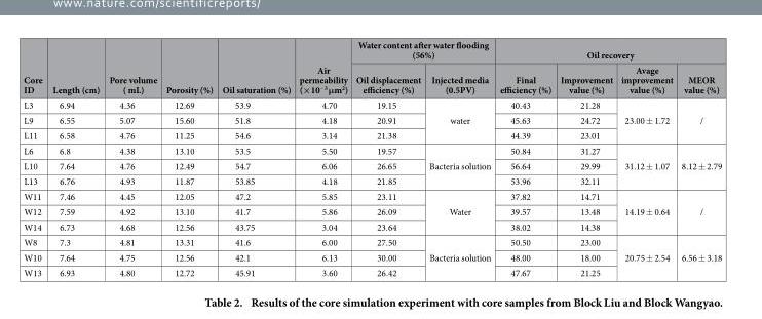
<table><thead><tr><td rowspan="2">Core ID</td><td rowspan="2">Length (cm)</td><td rowspan="2">Pore volume ( mL)</td><td rowspan="2">Porosity (%)</td><td rowspan="2">Oil saturation (%)</td><td rowspan="2">Air permeability (×10<sup>−3</sup> μm<sup>2</sup>)</td><td colspan="2">Water content after water flooding (56%)</td><td colspan="4">Oil recovery</td></tr><tr><td>Oil displacement efficiency (%)</td><td>Injected media (0.5PV)</td><td>Final efficiency (%)</td><td>Improvement value (%)</td><td>Avage improvement value (%)</td><td>MEOR value (%)</td></tr></thead><tbody><tr><td>L3</td><td>6.94</td><td>4.36</td><td>12.69</td><td>53.9</td><td>4.70</td><td>19.15</td><td rowspan="3">water</td><td>40.43</td><td>21.28</td><td rowspan="3">23.00 ± 1.72</td><td rowspan="3">/</td></tr><tr><td>L9</td><td>6.55</td><td>5.07</td><td>15.60</td><td>51.8</td><td>4.18</td><td>20.91</td><td>45.63</td><td>24.72</td></tr><tr><td>L11</td><td>6.58</td><td>4.76</td><td>11.25</td><td>54.6</td><td>3.14</td><td>21.38</td><td>44.39</td><td>23.01</td></tr><tr><td>L6</td><td>6.8</td><td>4.38</td><td>13.10</td><td>53.5</td><td>5.50</td><td>19.57</td><td rowspan="3">Bacteria solution</td><td>50.84</td><td>31.27</td><td rowspan="3">31.12 ± 1.07</td><td rowspan="3">8.12 ± 2.79</td></tr><tr><td>L10</td><td>7.64</td><td>4.76</td><td>12.49</td><td>54.7</td><td>6.06</td><td>26.65</td><td>56.64</td><td>29.99</td></tr><tr><td>L13</td><td>6.76</td><td>4.93</td><td>11.87</td><td>53.85</td><td>4.18</td><td>21.85</td><td>53.96</td><td>32.11</td></tr><tr><td>W11</td><td>7.46</td><td>4.45</td><td>12.05</td><td>47.2</td><td>5.85</td><td>23.11</td><td rowspan="3">Water</td><td>37.82</td><td>14.71</td><td rowspan="3">14.19 ± 0.64</td><td rowspan="3">/</td></tr><tr><td>W12</td><td>7.59</td><td>4.92</td><td>13.10</td><td>41.7</td><td>5.86</td><td>26.09</td><td>39.57</td><td>13.48</td></tr><tr><td>W14</td><td>6.73</td><td>4.68</td><td>12.56</td><td>43.75</td><td>3.04</td><td>23.64</td><td>38.02</td><td>14.38</td></tr><tr><td>W8</td><td>7.3</td><td>4.81</td><td>13.31</td><td>41.6</td><td>6.00</td><td>27.50</td><td rowspan="3">Bacteria solution</td><td>50.50</td><td>23.00</td><td rowspan="3">20.75 ± 2.54</td><td rowspan="3">6.56 ± 3.18</td></tr><tr><td>W10</td><td>7.64</td><td>4.75</td><td>12.56</td><td>42.1</td><td>6.13</td><td>30.00</td><td>48.00</td><td>18.00</td></tr><tr><td>W13</td><td>6.93</td><td>4.80</td><td>12.72</td><td>45.91</td><td>3.60</td><td>26.42</td><td>47.67</td><td>21.25</td></tr></tbody></table>